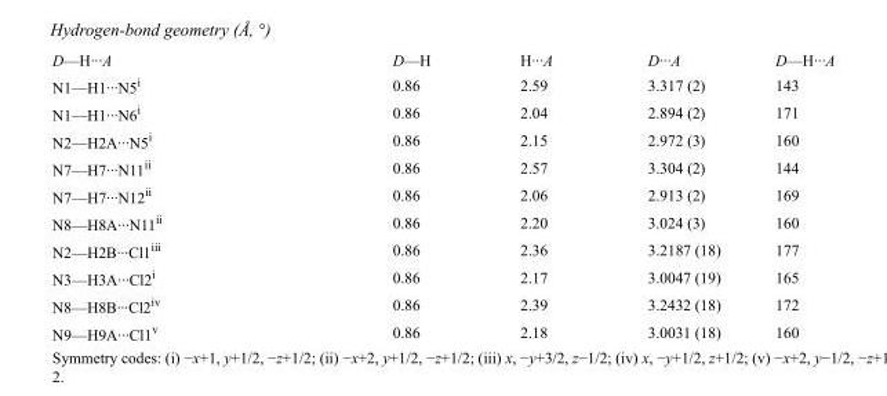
<table><tbody><tr><td>D—H···A</td><td>D—H</td><td>H···A</td><td>D···A</td><td>D—H···A</td></tr><tr><td>N1—H1···N5<sup>i</sup></td><td>0.86</td><td>2.59</td><td>3.317 (2)</td><td>143</td></tr><tr><td>N1—H1···N6<sup>i</sup></td><td>0.86</td><td>2.04</td><td>2.894 (2)</td><td>171</td></tr><tr><td>N2—H2A···N5<sup>i</sup></td><td>0.86</td><td>2.15</td><td>2.972 (3)</td><td>160</td></tr><tr><td>N7—H7···N11<sup>ii</sup></td><td>0.86</td><td>2.57</td><td>3.304 (2)</td><td>144</td></tr><tr><td>N7—H7···N12<sup>ii</sup></td><td>0.86</td><td>2.06</td><td>2.913 (2)</td><td>169</td></tr><tr><td>N8—H8A···N11<sup>ii</sup></td><td>0.86</td><td>2.20</td><td>3.024 (3)</td><td>160</td></tr><tr><td>N2—H2B···Cl1<sup>iii</sup></td><td>0.86</td><td>2.36</td><td>3.2187 (18)</td><td>177</td></tr><tr><td>N3—H3A···Cl2<sup>i</sup></td><td>0.86</td><td>2.17</td><td>3.0047 (19)</td><td>165</td></tr><tr><td>N8—H8B···Cl2<sup>iv</sup></td><td>0.86</td><td>2.39</td><td>3.2432 (18)</td><td>172</td></tr><tr><td>N9—H9A···Cl1<sup>v</sup></td><td>0.86</td><td>2.18</td><td>3.0031 (18)</td><td>160</td></tr></tbody></table>